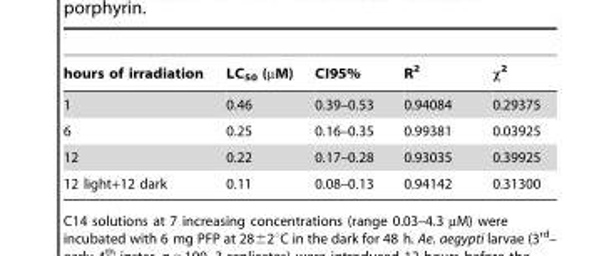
<table><thead><tr><td>hours of irradiation</td><td>LC<sub>50</sub> (µM)</td><td>CI95%</td><td>R<sup>2</sup></td><td>χ<sup>2</sup></td></tr></thead><tbody><tr><td>1</td><td>0.46</td><td>0.39–0.53</td><td>0.94084</td><td>0.29375</td></tr><tr><td>6</td><td>0.25</td><td>0.16–0.35</td><td>0.99381</td><td>0.03925</td></tr><tr><td>12</td><td>0.22</td><td>0.17–0.28</td><td>0.93035</td><td>0.39925</td></tr><tr><td>12 light+12 dark</td><td>0.11</td><td>0.08–0.13</td><td>0.94142</td><td>0.31300</td></tr></tbody></table>